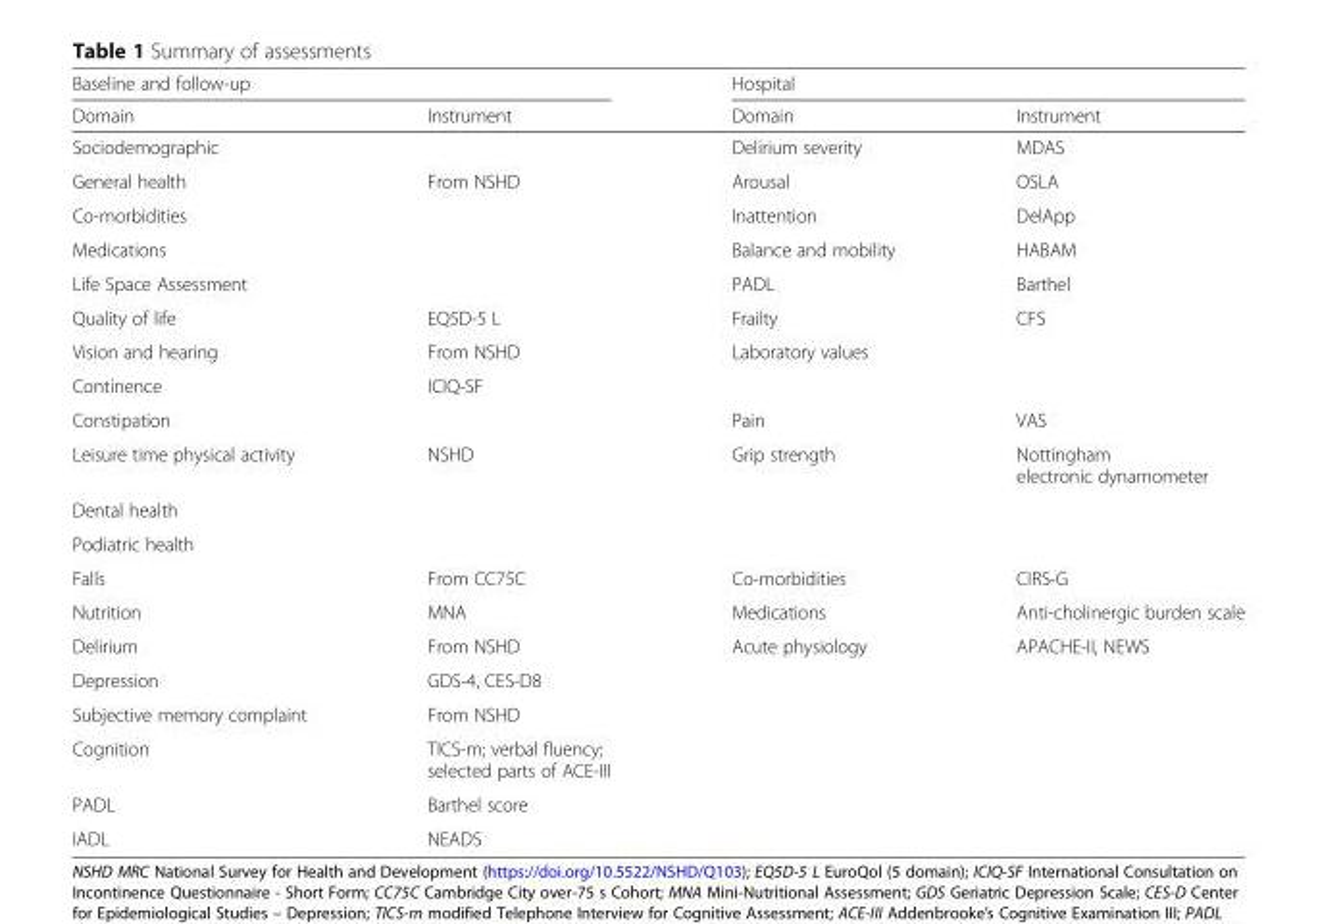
<table><thead><tr><td colspan="2">Baseline and follow-up</td><td colspan="2">Hospital</td></tr><tr><td>Domain</td><td>Instrument</td><td>Domain</td><td>Instrument</td></tr></thead><tbody><tr><td>Sociodemographic</td><td></td><td>Delirium severity</td><td>MDAS</td></tr><tr><td>General health</td><td>From NSHD</td><td>Arousal</td><td>OSLA</td></tr><tr><td>Co-morbidities</td><td></td><td>Inattention</td><td>DelApp</td></tr><tr><td>Medications</td><td></td><td>Balance and mobility</td><td>HABAM</td></tr><tr><td>Life Space Assessment</td><td></td><td>PADL</td><td>Barthel</td></tr><tr><td>Quality of life</td><td>EQ5D-5 L</td><td>Frailty</td><td>CFS</td></tr><tr><td>Vision and hearing</td><td>From NSHD</td><td>Laboratory values</td><td></td></tr><tr><td>Continence</td><td>ICIQ-SF</td><td></td><td></td></tr><tr><td>Constipation</td><td></td><td>Pain</td><td>VAS</td></tr><tr><td>Leisure time physical activity</td><td>NSHD</td><td>Grip strength</td><td>Nottingham electronic dynamometer</td></tr><tr><td colspan="4">Dental health</td></tr><tr><td colspan="4">Podiatric health</td></tr><tr><td>Falls</td><td>From CC75C</td><td>Co-morbidities</td><td>CIRS-G</td></tr><tr><td>Nutrition</td><td>MNA</td><td>Medications</td><td>Anti-cholinergic burden scale</td></tr><tr><td>Delirium</td><td>From NSHD</td><td>Acute physiology</td><td>APACHE-II, NEWS</td></tr><tr><td>Depression</td><td>GDS-4, CES-D8</td><td></td><td></td></tr><tr><td>Subjective memory complaint</td><td>From NSHD</td><td></td><td></td></tr><tr><td>Cognition</td><td>TICS-m; verbal fluency; selected parts of ACE-III</td><td></td><td></td></tr><tr><td>PADL</td><td>Barthel score</td><td></td><td></td></tr><tr><td>IADL</td><td>NEADS</td><td></td><td></td></tr></tbody></table>